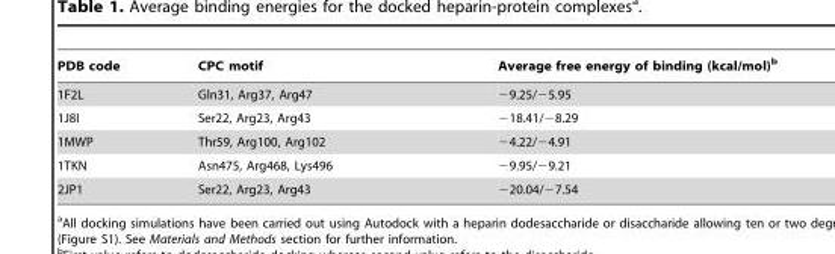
<table><thead><tr><td>PDB code</td><td>CPC motif</td><td>Average free energy of binding (kcal/mol)<sup>b</sup></td></tr></thead><tbody><tr><td>1F2L</td><td>Gln31, Arg37, Arg47</td><td>−9.25/−5.95</td></tr><tr><td>1J8I</td><td>Ser22, Arg23, Arg43</td><td>−18.41/−8.29</td></tr><tr><td>1MWP</td><td>Thr59, Arg100, Arg102</td><td>−4.22/−4.91</td></tr><tr><td>1TKN</td><td>Asn475, Arg468, Lys496</td><td>−9.95/−9.21</td></tr><tr><td>2JP1</td><td>Ser22, Arg23, Arg43</td><td>−20.04/−7.54</td></tr></tbody></table>